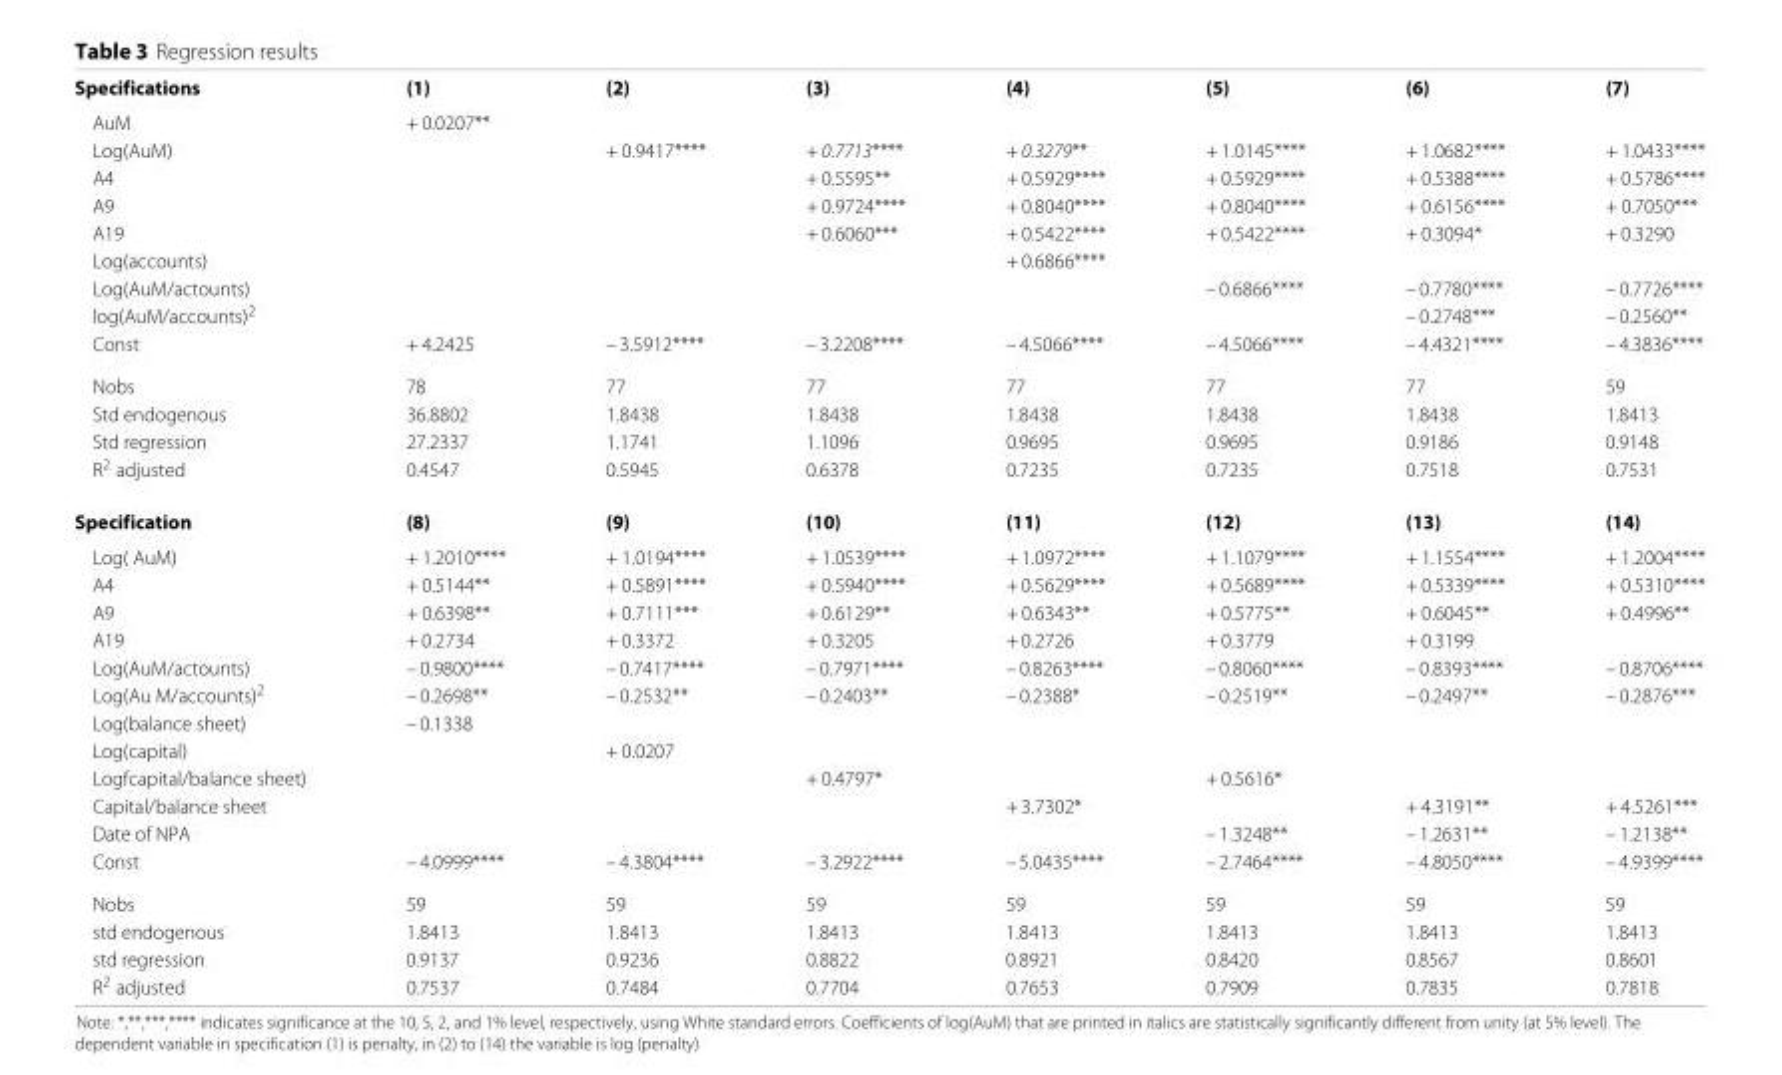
<table><tbody><tr><td>Specifications</td><td>(1)</td><td>(2)</td><td>(3)</td><td>(4)</td><td>(5)</td><td>(6)</td><td>(7)</td></tr><tr><td>AuM</td><td>+ 0.0207**</td><td></td><td></td><td></td><td></td><td></td><td></td></tr><tr><td>Log(AuM)</td><td></td><td>+ 0.9417****</td><td>+ 0.7713****</td><td>+ 0.3279**</td><td>+ 1.0145****</td><td>+ 1.0682****</td><td>+ 1.0433****</td></tr><tr><td>A4</td><td></td><td></td><td>+ 0.5595**</td><td>+ 0.5929****</td><td>+ 0.5929****</td><td>+ 0.5388****</td><td>+ 0.5786****</td></tr><tr><td>A9</td><td></td><td></td><td>+ 0.9724****</td><td>+ 0.8040****</td><td>+ 0.8040****</td><td>+ 0.6156****</td><td>+ 0.7050***</td></tr><tr><td>A19</td><td></td><td></td><td>+ 0.6060***</td><td>+ 0.5422****</td><td>+ 0.5422****</td><td>+ 0.3094*</td><td>+ 0.3290</td></tr><tr><td>Log(accounts)</td><td></td><td></td><td></td><td>+ 0.6866****</td><td></td><td></td><td></td></tr><tr><td>Log(AuM/actounts)</td><td></td><td></td><td></td><td></td><td>– 0.6866****</td><td>– 0.7780****</td><td>– 0.7726****</td></tr><tr><td>log(AuM/accounts)<sup>2</sup></td><td></td><td></td><td></td><td></td><td></td><td>– 0.2748***</td><td>– 0.2560**</td></tr><tr><td>Const</td><td>+ 4.2425</td><td>– 3.5912****</td><td>– 3.2208****</td><td>– 4.5066****</td><td>– 4.5066****</td><td>– 4.4321****</td><td>– 4.3836****</td></tr><tr><td>Nobs</td><td>78</td><td>77</td><td>77</td><td>77</td><td>77</td><td>77</td><td>59</td></tr><tr><td>Std endogenous</td><td>36.8802</td><td>1.8438</td><td>1.8438</td><td>1.8438</td><td>1.8438</td><td>1.8438</td><td>1.8413</td></tr><tr><td>Std regression</td><td>27.2337</td><td>1.1741</td><td>1.1096</td><td>0.9695</td><td>0.9695</td><td>0.9186</td><td>0.9148</td></tr><tr><td>R<sup>2</sup> adjusted</td><td>0.4547</td><td>0.5945</td><td>0.6378</td><td>0.7235</td><td>0.7235</td><td>0.7518</td><td>0.7531</td></tr><tr><td>Specification</td><td>(8)</td><td>(9)</td><td>(10)</td><td>(11)</td><td>(12)</td><td>(13)</td><td>(14)</td></tr><tr><td>Log( AuM)</td><td>+ 1.2010****</td><td>+ 1.0194****</td><td>+ 1.0539****</td><td>+ 1.0972****</td><td>+ 1.1079****</td><td>+ 1.1554****</td><td>+ 1.2004****</td></tr><tr><td>A4</td><td>+ 0.5144**</td><td>+ 0.5891****</td><td>+ 0.5940****</td><td>+ 0.5629****</td><td>+ 0.5689****</td><td>+ 0.5339****</td><td>+ 0.5310****</td></tr><tr><td>A9</td><td>+ 0.6398**</td><td>+ 0.7111***</td><td>+ 0.6129**</td><td>+ 0.6343**</td><td>+ 0.5775**</td><td>+ 0.6045**</td><td>+ 0.4996**</td></tr><tr><td>A19</td><td>+ 0.2734</td><td>+ 0.3372</td><td>+ 0.3205</td><td>+ 0.2726</td><td>+ 0.3779</td><td>+ 0.3199</td><td></td></tr><tr><td>Log(AuM/actounts)</td><td>– 0.9800****</td><td>– 0.7417****</td><td>– 0.7971****</td><td>– 0.8263****</td><td>– 0.8060****</td><td>– 0.8393****</td><td>– 0.8706****</td></tr><tr><td>Log(Au M/accounts)<sup>2</sup></td><td>– 0.2698**</td><td>– 0.2532**</td><td>– 0.2403**</td><td>– 0.2388*</td><td>– 0.2519**</td><td>– 0.2497**</td><td>– 0.2876***</td></tr><tr><td>Log(balance sheet)</td><td>– 0.1338</td><td></td><td></td><td></td><td></td><td></td><td></td></tr><tr><td>Log(capital)</td><td></td><td>+ 0.0207</td><td></td><td></td><td></td><td></td><td></td></tr><tr><td>Logfcapital/balance sheet)</td><td></td><td></td><td>+ 0.4797*</td><td></td><td>+ 0.5616*</td><td></td><td></td></tr><tr><td>Capital/balance sheet</td><td></td><td></td><td></td><td>+ 3.7302*</td><td></td><td>+ 4.3191**</td><td>+ 4.5261***</td></tr><tr><td>Date of NPA</td><td></td><td></td><td></td><td></td><td>– 1.3248**</td><td>– 1.2631**</td><td>– 1.2138**</td></tr><tr><td>Const</td><td>– 4.0999****</td><td>– 4.3804****</td><td>– 3.2922****</td><td>– 5.0435****</td><td>– 2.7464****</td><td>– 4.8050****</td><td>– 4.9399****</td></tr><tr><td>Nobs</td><td>59</td><td>59</td><td>59</td><td>59</td><td>59</td><td>59</td><td>59</td></tr><tr><td>std endogenous</td><td>1.8413</td><td>1.8413</td><td>1.8413</td><td>1.8413</td><td>1.8413</td><td>1.8413</td><td>1.8413</td></tr><tr><td>std regression</td><td>0.9137</td><td>0.9236</td><td>0.8822</td><td>0.8921</td><td>0.8420</td><td>0.8567</td><td>0.8601</td></tr><tr><td>R<sup>2</sup> adjusted</td><td>0.7537</td><td>0.7484</td><td>0.7704</td><td>0.7653</td><td>0.7909</td><td>0.7835</td><td>0.7818</td></tr></tbody></table>